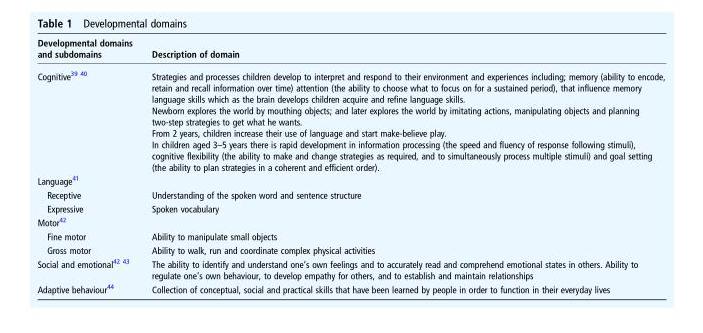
<table><thead><tr><td>Developmental domains and subdomains</td><td>Description of domain</td></tr></thead><tbody><tr><td>Cognitive<sup>39 40</sup></td><td>Strategies and processes children develop to interpret and respond to their environment and experiences including; memory (ability to encode, retain and recall information over time) attention (the ability to choose what to focus on for a sustained period), that influence memory language skills which as the brain develops children acquire and refine language skills. Newborn explores the world by mouthing objects; and later explores the world by imitating actions, manipulating objects and planning two-step strategies to get what he wants. From 2 years, children increase their use of language and start make-believe play. In children aged 3–5 years there is rapid development in information processing (the speed and fluency of response following stimuli), cognitive flexibility (the ability to make and change strategies as required, and to simultaneously process multiple stimuli) and goal setting (the ability to plan strategies in a coherent and efficient order).</td></tr><tr><td colspan="2">Language<sup>41</sup></td></tr><tr><td>Receptive</td><td>Understanding of the spoken word and sentence structure</td></tr><tr><td>Expressive</td><td>Spoken vocabulary</td></tr><tr><td colspan="2">Motor<sup>42</sup></td></tr><tr><td>Fine motor</td><td>Ability to manipulate small objects</td></tr><tr><td>Gross motor</td><td>Ability to walk, run and coordinate complex physical activities</td></tr><tr><td>Social and emotional<sup>42 43</sup></td><td>The ability to identify and understand one’s own feelings and to accurately read and comprehend emotional states in others. Ability to regulate one’s own behaviour, to develop empathy for others, and to establish and maintain relationships</td></tr><tr><td>Adaptive behaviour<sup>44</sup></td><td>Collection of conceptual, social and practical skills that have been learned by people in order to function in their everyday lives</td></tr></tbody></table>